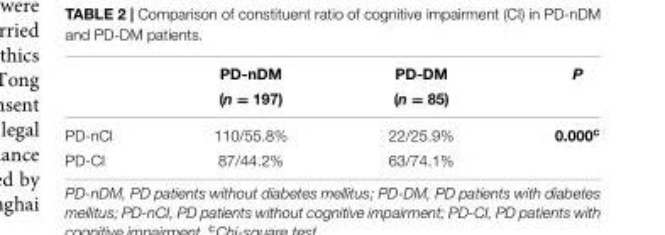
<table><thead><tr><td rowspan="2"></td><td rowspan="2">PD-nDM (n = 197)</td><td rowspan="2">PD-DM (n = 85)</td><td rowspan="2">P</td></tr><tr></tr></thead><tbody><tr><td>PD-nCI</td><td>110/55.8%</td><td>22/25.9%</td><td>0.000<sup>c</sup></td></tr><tr><td>PD-CI</td><td>87/44.2%</td><td>63/74.1%</td><td></td></tr></tbody></table>